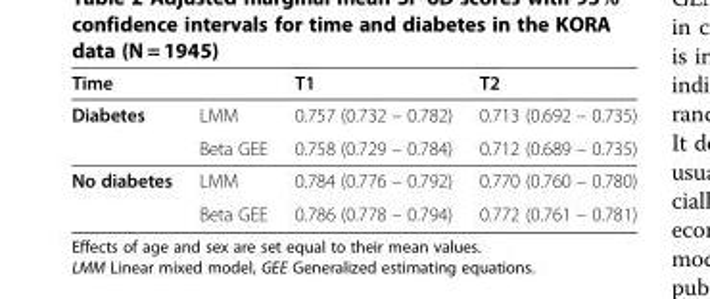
<table><thead><tr><td>Time</td><td></td><td>T1</td><td>T2</td></tr></thead><tbody><tr><td rowspan="2">Diabetes</td><td>LMM</td><td>0.757 (0.732 – 0.782)</td><td>0.713 (0.692 – 0.735)</td></tr><tr><td>Beta GEE</td><td>0.758 (0.729 – 0.784)</td><td>0.712 (0.689 – 0.735)</td></tr><tr><td rowspan="2">No diabetes</td><td>LMM</td><td>0.784 (0.776 – 0.792)</td><td>0.770 (0.760 – 0.780)</td></tr><tr><td>Beta GEE</td><td>0.786 (0.778 – 0.794)</td><td>0.772 (0.761 – 0.781)</td></tr></tbody></table>